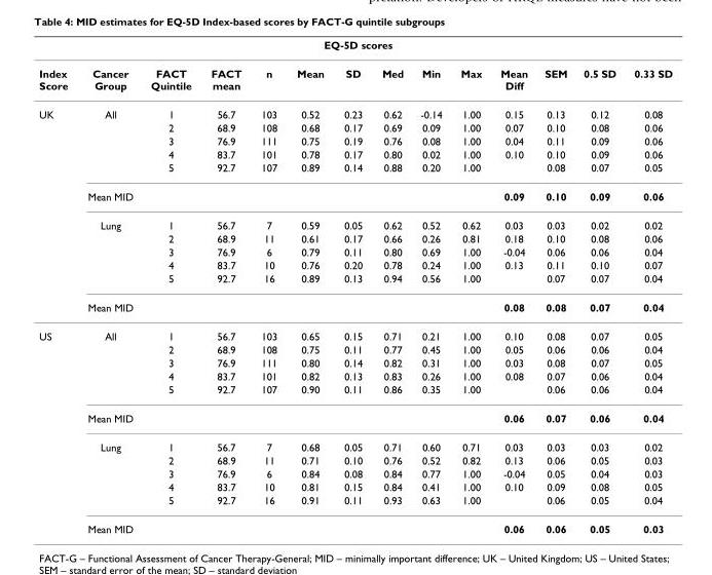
<table><thead><tr><td colspan="14">EQ-5D scores</td></tr><tr><td>Index Score</td><td>Cancer Group</td><td>FACT Quintile</td><td>FACT mean</td><td>n</td><td>Mean</td><td>SD</td><td>Med</td><td>Min</td><td>Max</td><td>Mean Diff</td><td>SEM</td><td>0.5 SD</td><td>0.33 SD</td></tr></thead><tbody><tr><td rowspan="12">UK</td><td>All</td><td>1</td><td>56.7</td><td>103</td><td>0.52</td><td>0.23</td><td>0.62</td><td>-0.14</td><td>1.00</td><td>0.15</td><td>0.13</td><td>0.12</td><td>0.08</td></tr><tr><td></td><td>2</td><td>68.9</td><td>108</td><td>0.68</td><td>0.17</td><td>0.69</td><td>0.09</td><td>1.00</td><td>0.07</td><td>0.10</td><td>0.08</td><td>0.06</td></tr><tr><td></td><td>3</td><td>76.9</td><td>111</td><td>0.75</td><td>0.19</td><td>0.76</td><td>0.08</td><td>1.00</td><td>0.04</td><td>0.11</td><td>0.09</td><td>0.06</td></tr><tr><td></td><td>4</td><td>83.7</td><td>101</td><td>0.78</td><td>0.17</td><td>0.80</td><td>0.02</td><td>1.00</td><td>0.10</td><td>0.10</td><td>0.09</td><td>0.06</td></tr><tr><td></td><td>5</td><td>92.7</td><td>107</td><td>0.89</td><td>0.14</td><td>0.88</td><td>0.20</td><td>1.00</td><td></td><td>0.08</td><td>0.07</td><td>0.05</td></tr><tr><td>Mean MID</td><td></td><td></td><td></td><td></td><td></td><td></td><td></td><td></td><td>0.09</td><td>0.10</td><td>0.09</td><td>0.06</td></tr><tr><td>Lung</td><td>1</td><td>56.7</td><td>7</td><td>0.59</td><td>0.05</td><td>0.62</td><td>0.52</td><td>0.62</td><td>0.03</td><td>0.03</td><td>0.02</td><td>0.02</td></tr><tr><td></td><td>2</td><td>68.9</td><td>11</td><td>0.61</td><td>0.17</td><td>0.66</td><td>0.26</td><td>0.81</td><td>0.18</td><td>0.10</td><td>0.08</td><td>0.06</td></tr><tr><td></td><td>3</td><td>76.9</td><td>6</td><td>0.79</td><td>0.11</td><td>0.80</td><td>0.69</td><td>1.00</td><td>-0.04</td><td>0.06</td><td>0.06</td><td>0.04</td></tr><tr><td></td><td>4</td><td>83.7</td><td>10</td><td>0.76</td><td>0.20</td><td>0.78</td><td>0.24</td><td>1.00</td><td>0.13</td><td>0.11</td><td>0.10</td><td>0.07</td></tr><tr><td></td><td>5</td><td>92.7</td><td>16</td><td>0.89</td><td>0.13</td><td>0.94</td><td>0.56</td><td>1.00</td><td></td><td>0.07</td><td>0.07</td><td>0.04</td></tr><tr><td>Mean MID</td><td></td><td></td><td></td><td></td><td></td><td></td><td></td><td></td><td>0.08</td><td>0.08</td><td>0.07</td><td>0.04</td></tr><tr><td rowspan="12">US</td><td>All</td><td>1</td><td>56.7</td><td>103</td><td>0.65</td><td>0.15</td><td>0.71</td><td>0.21</td><td>1.00</td><td>0.10</td><td>0.08</td><td>0.07</td><td>0.05</td></tr><tr><td></td><td>2</td><td>68.9</td><td>108</td><td>0.75</td><td>0.11</td><td>0.77</td><td>0.45</td><td>1.00</td><td>0.05</td><td>0.06</td><td>0.06</td><td>0.04</td></tr><tr><td></td><td>3</td><td>76.9</td><td>111</td><td>0.80</td><td>0.14</td><td>0.82</td><td>0.31</td><td>1.00</td><td>0.03</td><td>0.08</td><td>0.07</td><td>0.05</td></tr><tr><td></td><td>4</td><td>83.7</td><td>101</td><td>0.82</td><td>0.13</td><td>0.83</td><td>0.26</td><td>1.00</td><td>0.08</td><td>0.07</td><td>0.06</td><td>0.04</td></tr><tr><td></td><td>5</td><td>92.7</td><td>107</td><td>0.90</td><td>0.11</td><td>0.86</td><td>0.35</td><td>1.00</td><td></td><td>0.06</td><td>0.06</td><td>0.04</td></tr><tr><td>Mean MID</td><td></td><td></td><td></td><td></td><td></td><td></td><td></td><td></td><td>0.06</td><td>0.07</td><td>0.06</td><td>0.04</td></tr><tr><td>Lung</td><td>1</td><td>56.7</td><td>7</td><td>0.68</td><td>0.05</td><td>0.71</td><td>0.60</td><td>0.71</td><td>0.03</td><td>0.03</td><td>0.03</td><td>0.02</td></tr><tr><td></td><td>2</td><td>68.9</td><td>11</td><td>0.71</td><td>0.10</td><td>0.76</td><td>0.52</td><td>0.82</td><td>0.13</td><td>0.06</td><td>0.05</td><td>0.03</td></tr><tr><td></td><td>3</td><td>76.9</td><td>6</td><td>0.84</td><td>0.08</td><td>0.84</td><td>0.77</td><td>1.00</td><td>-0.04</td><td>0.05</td><td>0.04</td><td>0.03</td></tr><tr><td></td><td>4</td><td>83.7</td><td>10</td><td>0.81</td><td>0.15</td><td>0.84</td><td>0.41</td><td>1.00</td><td>0.10</td><td>0.09</td><td>0.08</td><td>0.05</td></tr><tr><td></td><td>5</td><td>92.7</td><td>16</td><td>0.91</td><td>0.11</td><td>0.93</td><td>0.63</td><td>1.00</td><td></td><td>0.06</td><td>0.05</td><td>0.04</td></tr><tr><td>Mean MID</td><td></td><td></td><td></td><td></td><td></td><td></td><td></td><td></td><td>0.06</td><td>0.06</td><td>0.05</td><td>0.03</td></tr></tbody></table>